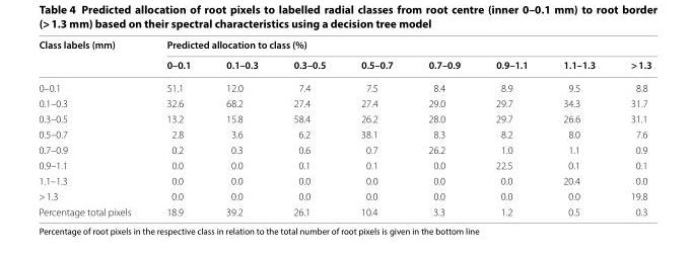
<table><thead><tr><td rowspan="2">Class labels (mm)</td><td colspan="8">Predicted allocation to class (%)</td></tr><tr><td>0–0.1</td><td>0.1–0.3</td><td>0.3–0.5</td><td>0.5–0.7</td><td>0.7–0.9</td><td>0.9–1.1</td><td>1.1–1.3</td><td>&gt; 1.3</td></tr></thead><tbody><tr><td>0–0.1</td><td>51.1</td><td>12.0</td><td>7.4</td><td>7.5</td><td>8.4</td><td>8.9</td><td>9.5</td><td>8.8</td></tr><tr><td>0.1–0.3</td><td>32.6</td><td>68.2</td><td>27.4</td><td>27.4</td><td>29.0</td><td>29.7</td><td>34.3</td><td>31.7</td></tr><tr><td>0.3–0.5</td><td>13.2</td><td>15.8</td><td>58.4</td><td>26.2</td><td>28.0</td><td>29.7</td><td>26.6</td><td>31.1</td></tr><tr><td>0.5–0.7</td><td>2.8</td><td>3.6</td><td>6.2</td><td>38.1</td><td>8.3</td><td>8.2</td><td>8.0</td><td>7.6</td></tr><tr><td>0.7–0.9</td><td>0.2</td><td>0.3</td><td>0.6</td><td>0.7</td><td>26.2</td><td>1.0</td><td>1.1</td><td>0.9</td></tr><tr><td>0.9–1.1</td><td>0.0</td><td>0.0</td><td>0.1</td><td>0.1</td><td>0.0</td><td>22.5</td><td>0.1</td><td>0.1</td></tr><tr><td>1.1–1.3</td><td>0.0</td><td>0.0</td><td>0.0</td><td>0.0</td><td>0.0</td><td>0.0</td><td>20.4</td><td>0.0</td></tr><tr><td>&gt; 1.3</td><td>0.0</td><td>0.0</td><td>0.0</td><td>0.0</td><td>0.0</td><td>0.0</td><td>0.0</td><td>19.8</td></tr><tr><td>Percentage total pixels</td><td>18.9</td><td>39.2</td><td>26.1</td><td>10.4</td><td>3.3</td><td>1.2</td><td>0.5</td><td>0.3</td></tr></tbody></table>